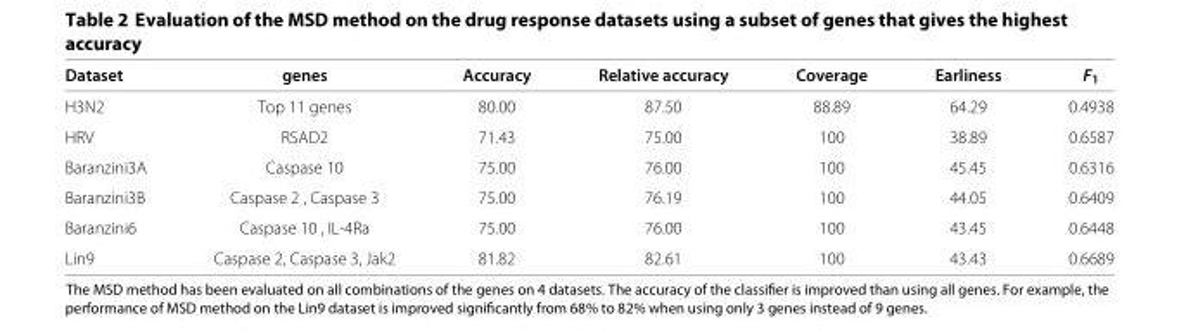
<table><thead><tr><td>Dataset</td><td>genes</td><td>Accuracy</td><td>Relative accuracy</td><td>Coverage</td><td>Earliness</td><td>F<sub>1</sub></td></tr></thead><tbody><tr><td>H3N2</td><td>Top 11 genes</td><td>80.00</td><td>87.50</td><td>88.89</td><td>64.29</td><td>0.4938</td></tr><tr><td>HRV</td><td>RSAD2</td><td>71.43</td><td>75.00</td><td>100</td><td>38.89</td><td>0.6587</td></tr><tr><td>Baranzini3A</td><td>Caspase 10</td><td>75.00</td><td>76.00</td><td>100</td><td>45.45</td><td>0.6316</td></tr><tr><td>Baranzini3B</td><td>Caspase 2 , Caspase 3</td><td>75.00</td><td>76.19</td><td>100</td><td>44.05</td><td>0.6409</td></tr><tr><td>Baranzini6</td><td>Caspase 10 , IL-4Ra</td><td>75.00</td><td>76.00</td><td>100</td><td>43.45</td><td>0.6448</td></tr><tr><td>Lin9</td><td>Caspase 2, Caspase 3, Jak2</td><td>81.82</td><td>82.61</td><td>100</td><td>43.43</td><td>0.6689</td></tr></tbody></table>